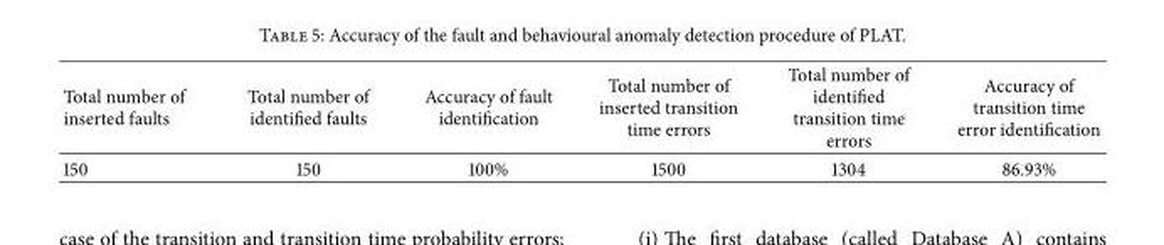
<table><thead><tr><td>Total number of inserted faults</td><td>Total number of identified faults</td><td>Accuracy of fault identification</td><td>Total number of inserted transition time errors</td><td>Total number of identified transition time errors</td><td>Accuracy of transition time error identification</td></tr></thead><tbody><tr><td>150</td><td>150</td><td>100%</td><td>1500</td><td>1304</td><td>86.93%</td></tr></tbody></table>